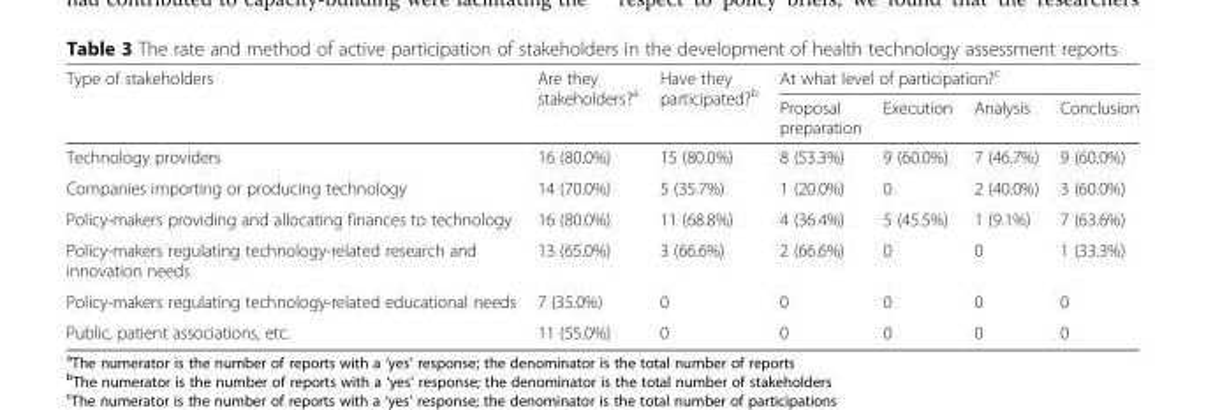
<table><thead><tr><td rowspan="2">Type of stakeholders</td><td rowspan="2">Are they stakeholders?<sup>a</sup></td><td rowspan="2">Have they participated?<sup>b</sup></td><td colspan="4">At what level of participation?<sup>c</sup></td></tr><tr><td>Proposal preparation</td><td>Execution</td><td>Analysis</td><td>Conclusion</td></tr></thead><tbody><tr><td>Technology providers</td><td>16 (80.0%)</td><td>15 (80.0%)</td><td>8 (53.3%)</td><td>9 (60.0%)</td><td>7 (46.7%)</td><td>9 (60.0%)</td></tr><tr><td>Companies importing or producing technology</td><td>14 (70.0%)</td><td>5 (35.7%)</td><td>1 (20.0%)</td><td>0</td><td>2 (40.0%)</td><td>3 (60.0%)</td></tr><tr><td>Policy-makers providing and allocating finances to technology</td><td>16 (80.0%)</td><td>11 (68.8%)</td><td>4 (36.4%)</td><td>5 (45.5%)</td><td>1 (9.1%)</td><td>7 (63.6%)</td></tr><tr><td>Policy-makers regulating technology-related research and innovation needs</td><td>13 (65.0%)</td><td>3 (66.6%)</td><td>2 (66.6%)</td><td>0</td><td>0</td><td>1 (33.3%)</td></tr><tr><td>Policy-makers regulating technology-related educational needs</td><td>7 (35.0%)</td><td>0</td><td>0</td><td>0</td><td>0</td><td>0</td></tr><tr><td>Public, patient associations, etc.</td><td>11 (55.0%)</td><td>0</td><td>0</td><td>0</td><td>0</td><td>0</td></tr></tbody></table>